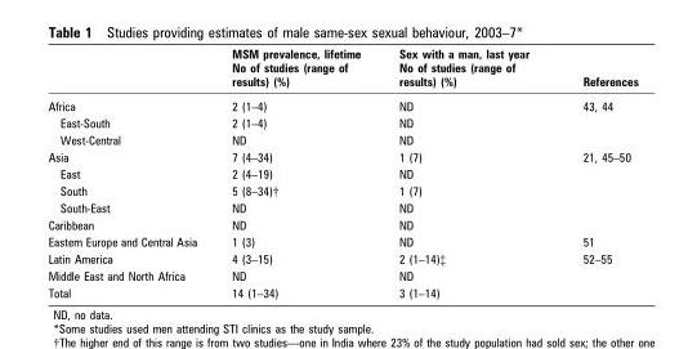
<table><thead><tr><td></td><td>MSM prevalence, lifetime No of studies (range of results) (%)</td><td>Sex with a man, last year No of studies (range of results) (%)</td><td>References</td></tr></thead><tbody><tr><td>Africa</td><td>2 (1–4)</td><td>ND</td><td>43, 44</td></tr><tr><td>East-South</td><td>2 (1–4)</td><td>ND</td><td></td></tr><tr><td>West-Central</td><td>ND</td><td>ND</td><td></td></tr><tr><td>Asia</td><td>7 (4–34)</td><td>1 (7)</td><td>21, 45–50</td></tr><tr><td>East</td><td>2 (4–19)</td><td>ND</td><td></td></tr><tr><td>South</td><td>5 (8–34)†</td><td>1 (7)</td><td></td></tr><tr><td>South-East</td><td>ND</td><td>ND</td><td></td></tr><tr><td>Caribbean</td><td>ND</td><td>ND</td><td></td></tr><tr><td>Eastern Europe and Central Asia</td><td>1 (3)</td><td>ND</td><td>51</td></tr><tr><td>Latin America</td><td>4 (3–15)</td><td>2 (1–14)‡</td><td>52–55</td></tr><tr><td>Middle East and North Africa</td><td>ND</td><td>ND</td><td></td></tr><tr><td>Total</td><td>14 (1–34)</td><td>3 (1–14)</td><td></td></tr></tbody></table>